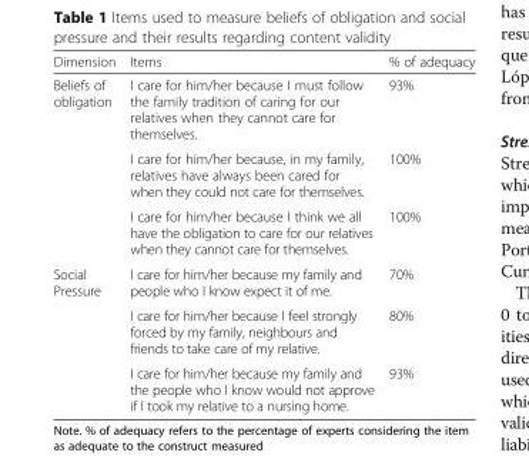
<table><thead><tr><td>Dimension</td><td>Items</td><td>% of adequacy</td></tr></thead><tbody><tr><td rowspan="3">Beliefs of obligation</td><td>I care for him/her because I must follow the family tradition of caring for our relatives when they cannot care for themselves.</td><td>93%</td></tr><tr><td>I care for him/her because, in my family, relatives have always been cared for when they could not care for themselves.</td><td>100%</td></tr><tr><td>I care for him/her because I think we all have the obligation to care for our relatives when they cannot care for themselves.</td><td>100%</td></tr><tr><td rowspan="3">Social Pressure</td><td>I care for him/her because my family and people who I know expect it of me.</td><td>70%</td></tr><tr><td>I care for him/her because I feel strongly forced by my family, neighbours and friends to take care of my relative.</td><td>80%</td></tr><tr><td>I care for him/her because my family and the people who I know would not approve if I took my relative to a nursing home.</td><td>93%</td></tr></tbody></table>